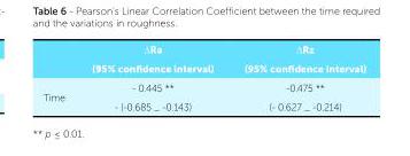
<table><thead><tr><td></td><td>ΔRa</td><td>ΔRz</td></tr></thead><tbody><tr><td></td><td>(95% confidence interval)</td><td>(95% confidence interval)</td></tr><tr><td rowspan="2">Time</td><td>- 0.445 **</td><td>-0.475 **</td></tr><tr><td>- (-0.685 _ -0.143)</td><td>(- 0.627 _ -0.214)</td></tr></tbody></table>